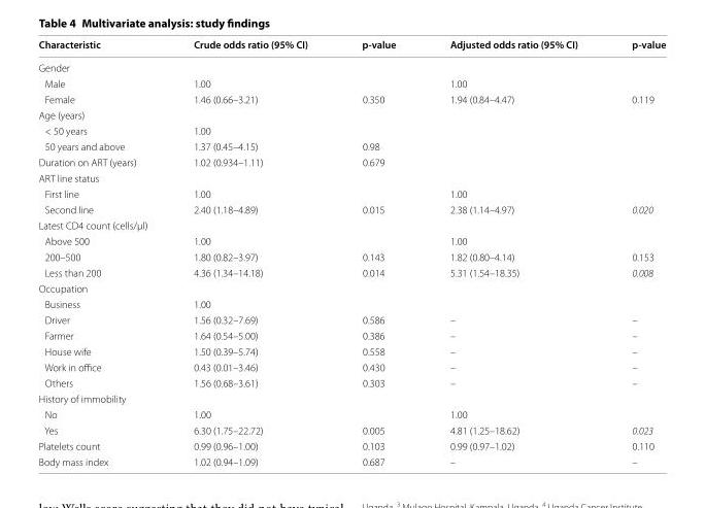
<table><thead><tr><td>Characteristic</td><td>Crude odds ratio (95% CI)</td><td>p-value</td><td>Adjusted odds ratio (95% CI)</td><td>p-value</td></tr></thead><tbody><tr><td colspan="5">Gender</td></tr><tr><td>Male</td><td>1.00</td><td></td><td>1.00</td><td></td></tr><tr><td>Female</td><td>1.46 (0.66–3.21)</td><td>0.350</td><td>1.94 (0.84–4.47)</td><td>0.119</td></tr><tr><td colspan="5">Age (years)</td></tr><tr><td>&lt; 50 years</td><td>1.00</td><td></td><td></td><td></td></tr><tr><td>50 years and above</td><td>1.37 (0.45–4.15)</td><td>0.98</td><td></td><td></td></tr><tr><td>Duration on ART (years)</td><td>1.02 (0.934–1.11)</td><td>0.679</td><td></td><td></td></tr><tr><td colspan="5">ART line status</td></tr><tr><td>First line</td><td>1.00</td><td></td><td>1.00</td><td></td></tr><tr><td>Second line</td><td>2.40 (1.18–4.89)</td><td>0.015</td><td>2.38 (1.14–4.97)</td><td>0.020</td></tr><tr><td colspan="5">Latest CD4 count (cells/µl)</td></tr><tr><td>Above 500</td><td>1.00</td><td></td><td>1.00</td><td></td></tr><tr><td>200–500</td><td>1.80 (0.82–3.97)</td><td>0.143</td><td>1.82 (0.80–4.14)</td><td>0.153</td></tr><tr><td>Less than 200</td><td>4.36 (1.34–14.18)</td><td>0.014</td><td>5.31 (1.54–18.35)</td><td>0.008</td></tr><tr><td colspan="5">Occupation</td></tr><tr><td>Business</td><td>1.00</td><td></td><td></td><td></td></tr><tr><td>Driver</td><td>1.56 (0.32–7.69)</td><td>0.586</td><td>–</td><td>–</td></tr><tr><td>Farmer</td><td>1.64 (0.54–5.00)</td><td>0.386</td><td>–</td><td>–</td></tr><tr><td>House wife</td><td>1.50 (0.39–5.74)</td><td>0.558</td><td>–</td><td>–</td></tr><tr><td>Work in office</td><td>0.43 (0.01–3.46)</td><td>0.430</td><td>–</td><td>–</td></tr><tr><td>Others</td><td>1.56 (0.68–3.61)</td><td>0.303</td><td>–</td><td>–</td></tr><tr><td colspan="5">History of immobility</td></tr><tr><td>No</td><td>1.00</td><td></td><td>1.00</td><td></td></tr><tr><td>Yes</td><td>6.30 (1.75–22.72)</td><td>0.005</td><td>4.81 (1.25–18.62)</td><td>0.023</td></tr><tr><td>Platelets count</td><td>0.99 (0.96–1.00)</td><td>0.103</td><td>0.99 (0.97–1.02)</td><td>0.110</td></tr><tr><td>Body mass index</td><td>1.02 (0.94–1.09)</td><td>0.687</td><td>–</td><td>–</td></tr></tbody></table>